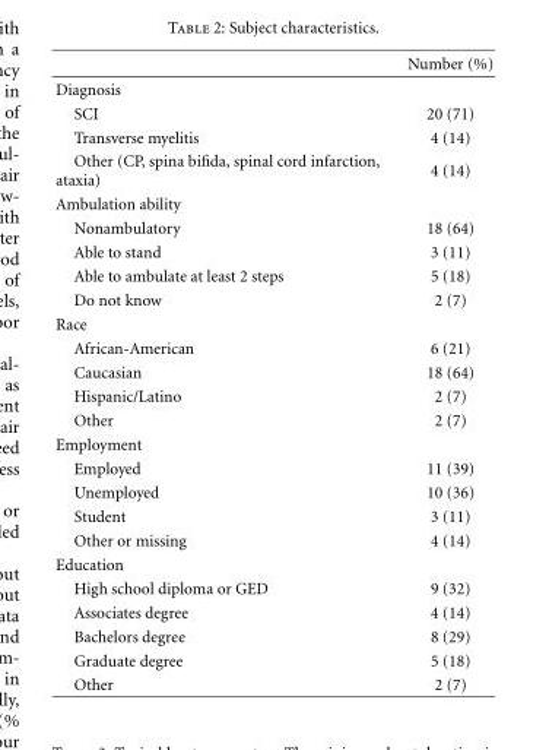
<table><thead><tr><td></td><td>Number (%)</td></tr></thead><tbody><tr><td colspan="2">Diagnosis</td></tr><tr><td>SCI</td><td>20 (71)</td></tr><tr><td>Transverse myelitis</td><td>4 (14)</td></tr><tr><td>Other (CP, spina bifida, spinal cord infarction, ataxia)</td><td>4 (14)</td></tr><tr><td colspan="2">Ambulation ability</td></tr><tr><td>Nonambulatory</td><td>18 (64)</td></tr><tr><td>Able to stand</td><td>3 (11)</td></tr><tr><td>Able to ambulate at least 2 steps</td><td>5 (18)</td></tr><tr><td>Do not know</td><td>2 (7)</td></tr><tr><td colspan="2">Race</td></tr><tr><td>African-American</td><td>6 (21)</td></tr><tr><td>Caucasian</td><td>18 (64)</td></tr><tr><td>Hispanic/Latino</td><td>2 (7)</td></tr><tr><td>Other</td><td>2 (7)</td></tr><tr><td colspan="2">Employment</td></tr><tr><td>Employed</td><td>11 (39)</td></tr><tr><td>Unemployed</td><td>10 (36)</td></tr><tr><td>Student</td><td>3 (11)</td></tr><tr><td>Other or missing</td><td>4 (14)</td></tr><tr><td colspan="2">Education</td></tr><tr><td>High school diploma or GED</td><td>9 (32)</td></tr><tr><td>Associates degree</td><td>4 (14)</td></tr><tr><td>Bachelors degree</td><td>8 (29)</td></tr><tr><td>Graduate degree</td><td>5 (18)</td></tr><tr><td>Other</td><td>2 (7)</td></tr></tbody></table>